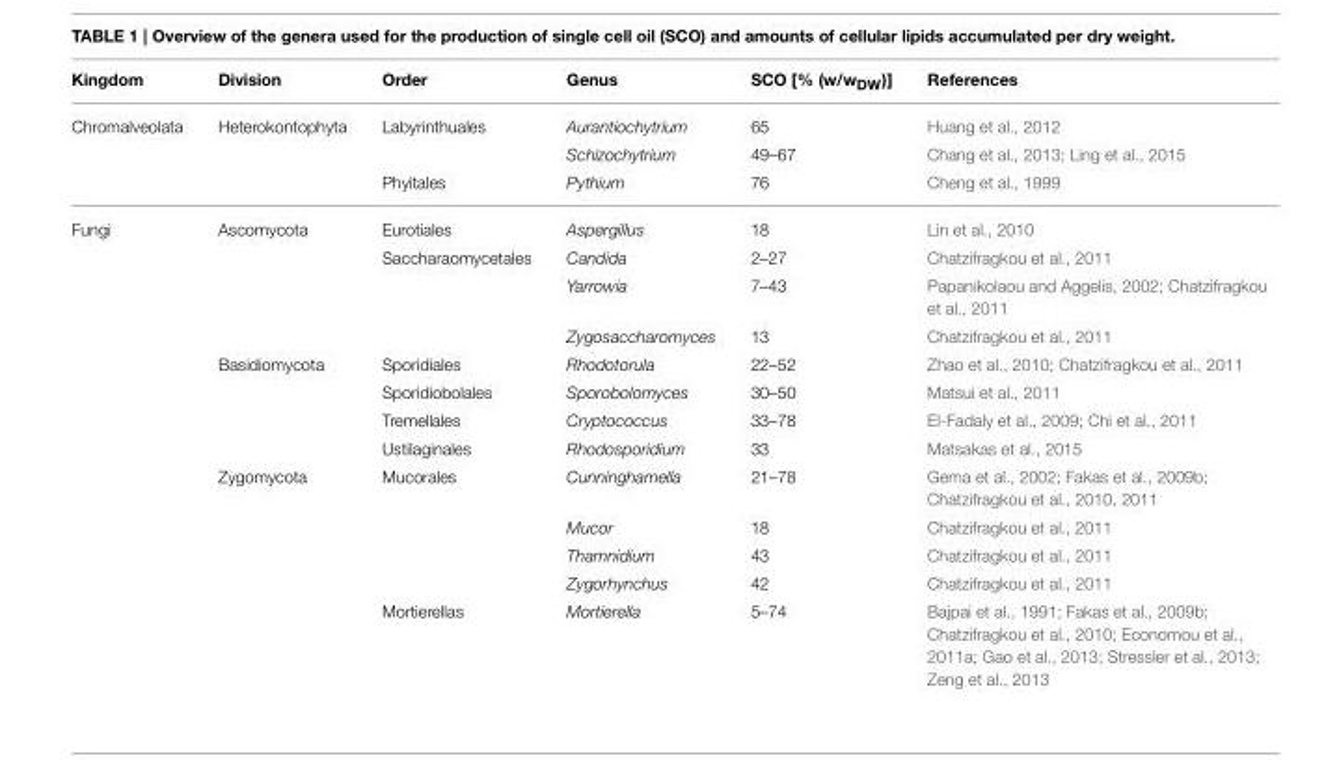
<table><thead><tr><td>Kingdom</td><td>Division</td><td>Order</td><td>Genus</td><td>SCO [% (w/w<sub>DW</sub>)]</td><td>References</td></tr></thead><tbody><tr><td rowspan="3">Chromalveolata</td><td>Heterokontophyta</td><td>Labyrinthuales</td><td>Aurantiochytrium</td><td>65</td><td>Huang et al., 2012</td></tr><tr><td></td><td></td><td>Schizochytrium</td><td>49–67</td><td>Chang et al., 2013; Ling et al., 2015</td></tr><tr><td></td><td>Phyitales</td><td>Pythium</td><td>76</td><td>Cheng et al., 1999</td></tr><tr><td rowspan="13">Fungi</td><td>Ascomycota</td><td>Eurotiales</td><td>Aspergillus</td><td>18</td><td>Lin et al., 2010</td></tr><tr><td></td><td>Saccharaomycetales</td><td>Candida</td><td>2–27</td><td>Chatzifragkou et al., 2011</td></tr><tr><td></td><td></td><td>Yarrowia</td><td>7–43</td><td>Papanikolaou and Aggelis, 2002; Chatzifragkou et al., 2011</td></tr><tr><td></td><td></td><td>Zygosaccharomyces</td><td>13</td><td>Chatzifragkou et al., 2011</td></tr><tr><td>Basidiomycota</td><td>Sporidiales</td><td>Rhodotorula</td><td>22–52</td><td>Zhao et al., 2010; Chatzifragkou et al., 2011</td></tr><tr><td></td><td>Sporidiobolales</td><td>Sporobolomyces</td><td>30–50</td><td>Matsui et al., 2011</td></tr><tr><td></td><td>Tremellales</td><td>Cryptococcus</td><td>33–78</td><td>El-Fadaly et al., 2009; Chi et al., 2011</td></tr><tr><td></td><td>Ustilaginales</td><td>Rhodosporidium</td><td>33</td><td>Matsakas et al., 2015</td></tr><tr><td>Zygomycota</td><td>Mucorales</td><td>Cunninghamella</td><td>21–78</td><td>Gema et al., 2002; Fakas et al., 2009b; Chatzifragkou et al., 2010, 2011</td></tr><tr><td></td><td></td><td>Mucor</td><td>18</td><td>Chatzifragkou et al., 2011</td></tr><tr><td></td><td></td><td>Thamnidium</td><td>43</td><td>Chatzifragkou et al., 2011</td></tr><tr><td></td><td></td><td>Zygorhynchus</td><td>42</td><td>Chatzifragkou et al., 2011</td></tr><tr><td></td><td>Mortierellas</td><td>Mortierella</td><td>5–74</td><td>Bajpai et al., 1991; Fakas et al., 2009b; Chatzifragkou et al., 2010; Economou et al., 2011a; Gao et al., 2013; Stressler et al., 2013; Zeng et al., 2013</td></tr></tbody></table>